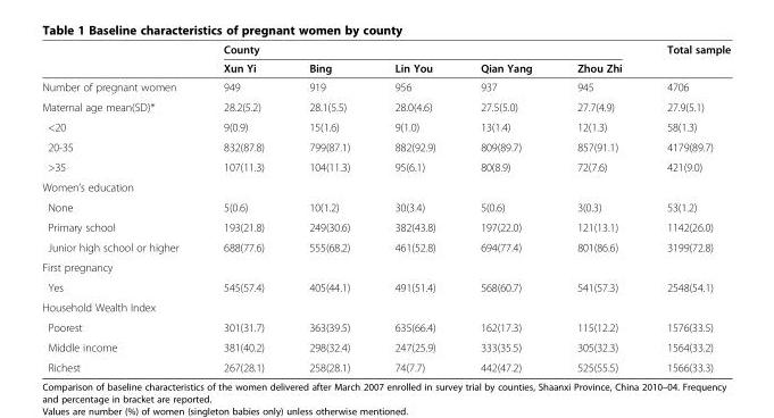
<table><thead><tr><td rowspan="2"></td><td colspan="5">County</td><td rowspan="2">Total sample</td></tr><tr><td>Xun Yi</td><td>Bing</td><td>Lin You</td><td>Qian Yang</td><td>Zhou Zhi</td></tr></thead><tbody><tr><td>Number of pregnant women</td><td>949</td><td>919</td><td>956</td><td>937</td><td>945</td><td>4706</td></tr><tr><td>Maternal age mean(SD)*</td><td>28.2(5.2)</td><td>28.1(5.5)</td><td>28.0(4.6)</td><td>27.5(5.0)</td><td>27.7(4.9)</td><td>27.9(5.1)</td></tr><tr><td>&lt;20</td><td>9(0.9)</td><td>15(1.6)</td><td>9(1.0)</td><td>13(1.4)</td><td>12(1.3)</td><td>58(1.3)</td></tr><tr><td>20-35</td><td>832(87.8)</td><td>799(87.1)</td><td>882(92.9)</td><td>809(89.7)</td><td>857(91.1)</td><td>4179(89.7)</td></tr><tr><td>&gt;35</td><td>107(11.3)</td><td>104(11.3)</td><td>95(6.1)</td><td>80(8.9)</td><td>72(7.6)</td><td>421(9.0)</td></tr><tr><td colspan="7">Women’s education</td></tr><tr><td>None</td><td>5(0.6)</td><td>10(1.2)</td><td>30(3.4)</td><td>5(0.6)</td><td>3(0.3)</td><td>53(1.2)</td></tr><tr><td>Primary school</td><td>193(21.8)</td><td>249(30.6)</td><td>382(43.8)</td><td>197(22.0)</td><td>121(13.1)</td><td>1142(26.0)</td></tr><tr><td>Junior high school or higher</td><td>688(77.6)</td><td>555(68.2)</td><td>461(52.8)</td><td>694(77.4)</td><td>801(86.6)</td><td>3199(72.8)</td></tr><tr><td colspan="7">First pregnancy</td></tr><tr><td>Yes</td><td>545(57.4)</td><td>405(44.1)</td><td>491(51.4)</td><td>568(60.7)</td><td>541(57.3)</td><td>2548(54.1)</td></tr><tr><td colspan="7">Household Wealth Index</td></tr><tr><td>Poorest</td><td>301(31.7)</td><td>363(39.5)</td><td>635(66.4)</td><td>162(17.3)</td><td>115(12.2)</td><td>1576(33.5)</td></tr><tr><td>Middle income</td><td>381(40.2)</td><td>298(32.4)</td><td>247(25.9)</td><td>333(35.5)</td><td>305(32.3)</td><td>1564(33.2)</td></tr><tr><td>Richest</td><td>267(28.1)</td><td>258(28.1)</td><td>74(7.7)</td><td>442(47.2)</td><td>525(55.5)</td><td>1566(33.3)</td></tr></tbody></table>